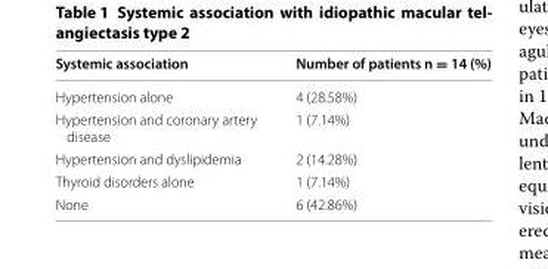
<table><thead><tr><td>Systemic association</td><td>Number of patients n = 14 (%)</td></tr></thead><tbody><tr><td>Hypertension alone</td><td>4 (28.58%)</td></tr><tr><td>Hypertension and coronary artery disease</td><td>1 (7.14%)</td></tr><tr><td>Hypertension and dyslipidemia</td><td>2 (14.28%)</td></tr><tr><td>Thyroid disorders alone</td><td>1 (7.14%)</td></tr><tr><td>None</td><td>6 (42.86%)</td></tr></tbody></table>